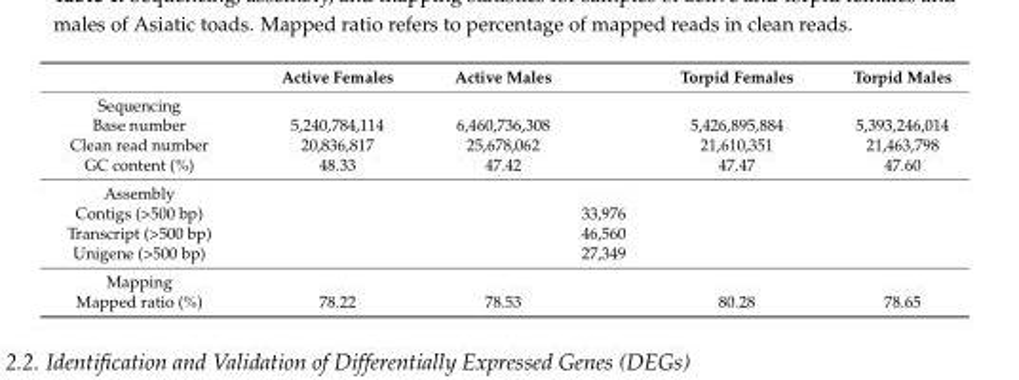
<table><thead><tr><td></td><td>Active Females</td><td>Active Males</td><td></td><td>Torpid Females</td><td>Torpid Males</td></tr></thead><tbody><tr><td colspan="6">Sequencing</td></tr><tr><td>Base number</td><td>5,240,784,114</td><td>6,460,736,308</td><td></td><td>5,426,895,884</td><td>5,393,246,014</td></tr><tr><td>Clean read number</td><td>20,836,817</td><td>25,678,062</td><td></td><td>21,610,351</td><td>21,463,798</td></tr><tr><td>GC content (%)</td><td>48.33</td><td>47.42</td><td></td><td>47.47</td><td>47.60</td></tr><tr><td colspan="6">Assembly</td></tr><tr><td>Contigs (&gt;500 bp)</td><td></td><td></td><td>33,976</td><td></td><td></td></tr><tr><td>Transcript (&gt;500 bp)</td><td></td><td></td><td>46,560</td><td></td><td></td></tr><tr><td>Unigene (&gt;500 bp)</td><td></td><td></td><td>27,349</td><td></td><td></td></tr><tr><td colspan="6">Mapping</td></tr><tr><td>Mapped ratio (%)</td><td>78.22</td><td>78.53</td><td></td><td>80.28</td><td>78.65</td></tr></tbody></table>